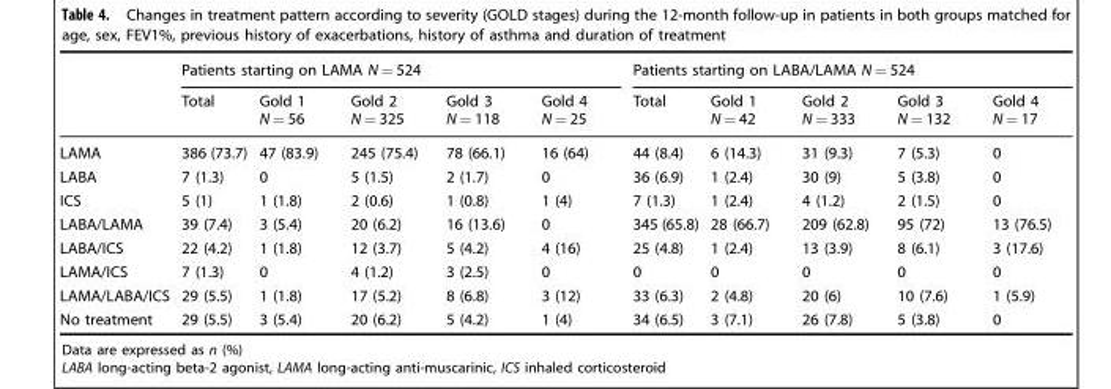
<table><thead><tr><td rowspan="2"></td><td colspan="5">Patients starting on LAMA N = 524</td><td colspan="5">Patients starting on LABA/LAMA N = 524</td></tr><tr><td>Total</td><td>Gold 1 N = 56</td><td>Gold 2 N = 325</td><td>Gold 3 N = 118</td><td>Gold 4 N = 25</td><td>Total</td><td>Gold 1 N = 42</td><td>Gold 2 N = 333</td><td>Gold 3 N = 132</td><td>Gold 4 N = 17</td></tr></thead><tbody><tr><td>LAMA</td><td>386 (73.7)</td><td>47 (83.9)</td><td>245 (75.4)</td><td>78 (66.1)</td><td>16 (64)</td><td>44 (8.4)</td><td>6 (14.3)</td><td>31 (9.3)</td><td>7 (5.3)</td><td>0</td></tr><tr><td>LABA</td><td>7 (1.3)</td><td>0</td><td>5 (1.5)</td><td>2 (1.7)</td><td>0</td><td>36 (6.9)</td><td>1 (2.4)</td><td>30 (9)</td><td>5 (3.8)</td><td>0</td></tr><tr><td>ICS</td><td>5 (1)</td><td>1 (1.8)</td><td>2 (0.6)</td><td>1 (0.8)</td><td>1 (4)</td><td>7 (1.3)</td><td>1 (2.4)</td><td>4 (1.2)</td><td>2 (1.5)</td><td>0</td></tr><tr><td>LABA/LAMA</td><td>39 (7.4)</td><td>3 (5.4)</td><td>20 (6.2)</td><td>16 (13.6)</td><td>0</td><td>345 (65.8)</td><td>28 (66.7)</td><td>209 (62.8)</td><td>95 (72)</td><td>13 (76.5)</td></tr><tr><td>LABA/ICS</td><td>22 (4.2)</td><td>1 (1.8)</td><td>12 (3.7)</td><td>5 (4.2)</td><td>4 (16)</td><td>25 (4.8)</td><td>1 (2.4)</td><td>13 (3.9)</td><td>8 (6.1)</td><td>3 (17.6)</td></tr><tr><td>LAMA/ICS</td><td>7 (1.3)</td><td>0</td><td>4 (1.2)</td><td>3 (2.5)</td><td>0</td><td>0</td><td>0</td><td>0</td><td>0</td><td>0</td></tr><tr><td>LAMA/LABA/ICS</td><td>29 (5.5)</td><td>1 (1.8)</td><td>17 (5.2)</td><td>8 (6.8)</td><td>3 (12)</td><td>33 (6.3)</td><td>2 (4.8)</td><td>20 (6)</td><td>10 (7.6)</td><td>1 (5.9)</td></tr><tr><td>No treatment</td><td>29 (5.5)</td><td>3 (5.4)</td><td>20 (6.2)</td><td>5 (4.2)</td><td>1 (4)</td><td>34 (6.5)</td><td>3 (7.1)</td><td>26 (7.8)</td><td>5 (3.8)</td><td>0</td></tr></tbody></table>